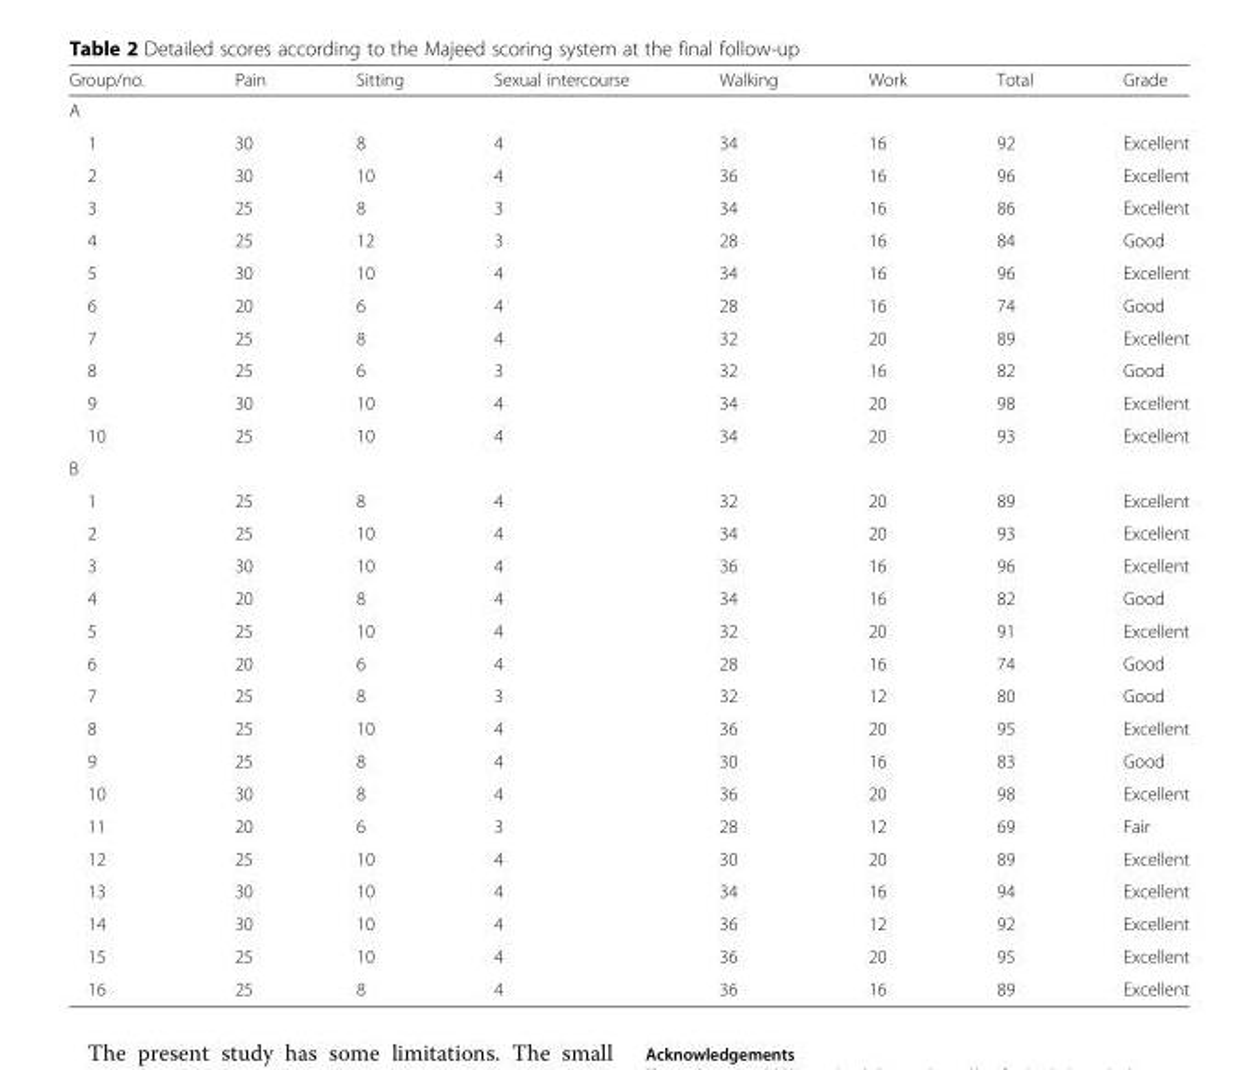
<table><thead><tr><td>Group/no.</td><td>Pain</td><td>Sitting</td><td>Sexual intercourse</td><td>Walking</td><td>Work</td><td>Total</td><td>Grade</td></tr></thead><tbody><tr><td colspan="8">A</td></tr><tr><td>1</td><td>30</td><td>8</td><td>4</td><td>34</td><td>16</td><td>92</td><td>Excellent</td></tr><tr><td>2</td><td>30</td><td>10</td><td>4</td><td>36</td><td>16</td><td>96</td><td>Excellent</td></tr><tr><td>3</td><td>25</td><td>8</td><td>3</td><td>34</td><td>16</td><td>86</td><td>Excellent</td></tr><tr><td>4</td><td>25</td><td>12</td><td>3</td><td>28</td><td>16</td><td>84</td><td>Good</td></tr><tr><td>5</td><td>30</td><td>10</td><td>4</td><td>34</td><td>16</td><td>96</td><td>Excellent</td></tr><tr><td>6</td><td>20</td><td>6</td><td>4</td><td>28</td><td>16</td><td>74</td><td>Good</td></tr><tr><td>7</td><td>25</td><td>8</td><td>4</td><td>32</td><td>20</td><td>89</td><td>Excellent</td></tr><tr><td>8</td><td>25</td><td>6</td><td>3</td><td>32</td><td>16</td><td>82</td><td>Good</td></tr><tr><td>9</td><td>30</td><td>10</td><td>4</td><td>34</td><td>20</td><td>98</td><td>Excellent</td></tr><tr><td>10</td><td>25</td><td>10</td><td>4</td><td>34</td><td>20</td><td>93</td><td>Excellent</td></tr><tr><td colspan="8">B</td></tr><tr><td>1</td><td>25</td><td>8</td><td>4</td><td>32</td><td>20</td><td>89</td><td>Excellent</td></tr><tr><td>2</td><td>25</td><td>10</td><td>4</td><td>34</td><td>20</td><td>93</td><td>Excellent</td></tr><tr><td>3</td><td>30</td><td>10</td><td>4</td><td>36</td><td>16</td><td>96</td><td>Excellent</td></tr><tr><td>4</td><td>20</td><td>8</td><td>4</td><td>34</td><td>16</td><td>82</td><td>Good</td></tr><tr><td>5</td><td>25</td><td>10</td><td>4</td><td>32</td><td>20</td><td>91</td><td>Excellent</td></tr><tr><td>6</td><td>20</td><td>6</td><td>4</td><td>28</td><td>16</td><td>74</td><td>Good</td></tr><tr><td>7</td><td>25</td><td>8</td><td>3</td><td>32</td><td>12</td><td>80</td><td>Good</td></tr><tr><td>8</td><td>25</td><td>10</td><td>4</td><td>36</td><td>20</td><td>95</td><td>Excellent</td></tr><tr><td>9</td><td>25</td><td>8</td><td>4</td><td>30</td><td>16</td><td>83</td><td>Good</td></tr><tr><td>10</td><td>30</td><td>8</td><td>4</td><td>36</td><td>20</td><td>98</td><td>Excellent</td></tr><tr><td>11</td><td>20</td><td>6</td><td>3</td><td>28</td><td>12</td><td>69</td><td>Fair</td></tr><tr><td>12</td><td>25</td><td>10</td><td>4</td><td>30</td><td>20</td><td>89</td><td>Excellent</td></tr><tr><td>13</td><td>30</td><td>10</td><td>4</td><td>34</td><td>16</td><td>94</td><td>Excellent</td></tr><tr><td>14</td><td>30</td><td>10</td><td>4</td><td>36</td><td>12</td><td>92</td><td>Excellent</td></tr><tr><td>15</td><td>25</td><td>10</td><td>4</td><td>36</td><td>20</td><td>95</td><td>Excellent</td></tr><tr><td>16</td><td>25</td><td>8</td><td>4</td><td>36</td><td>16</td><td>89</td><td>Excellent</td></tr></tbody></table>